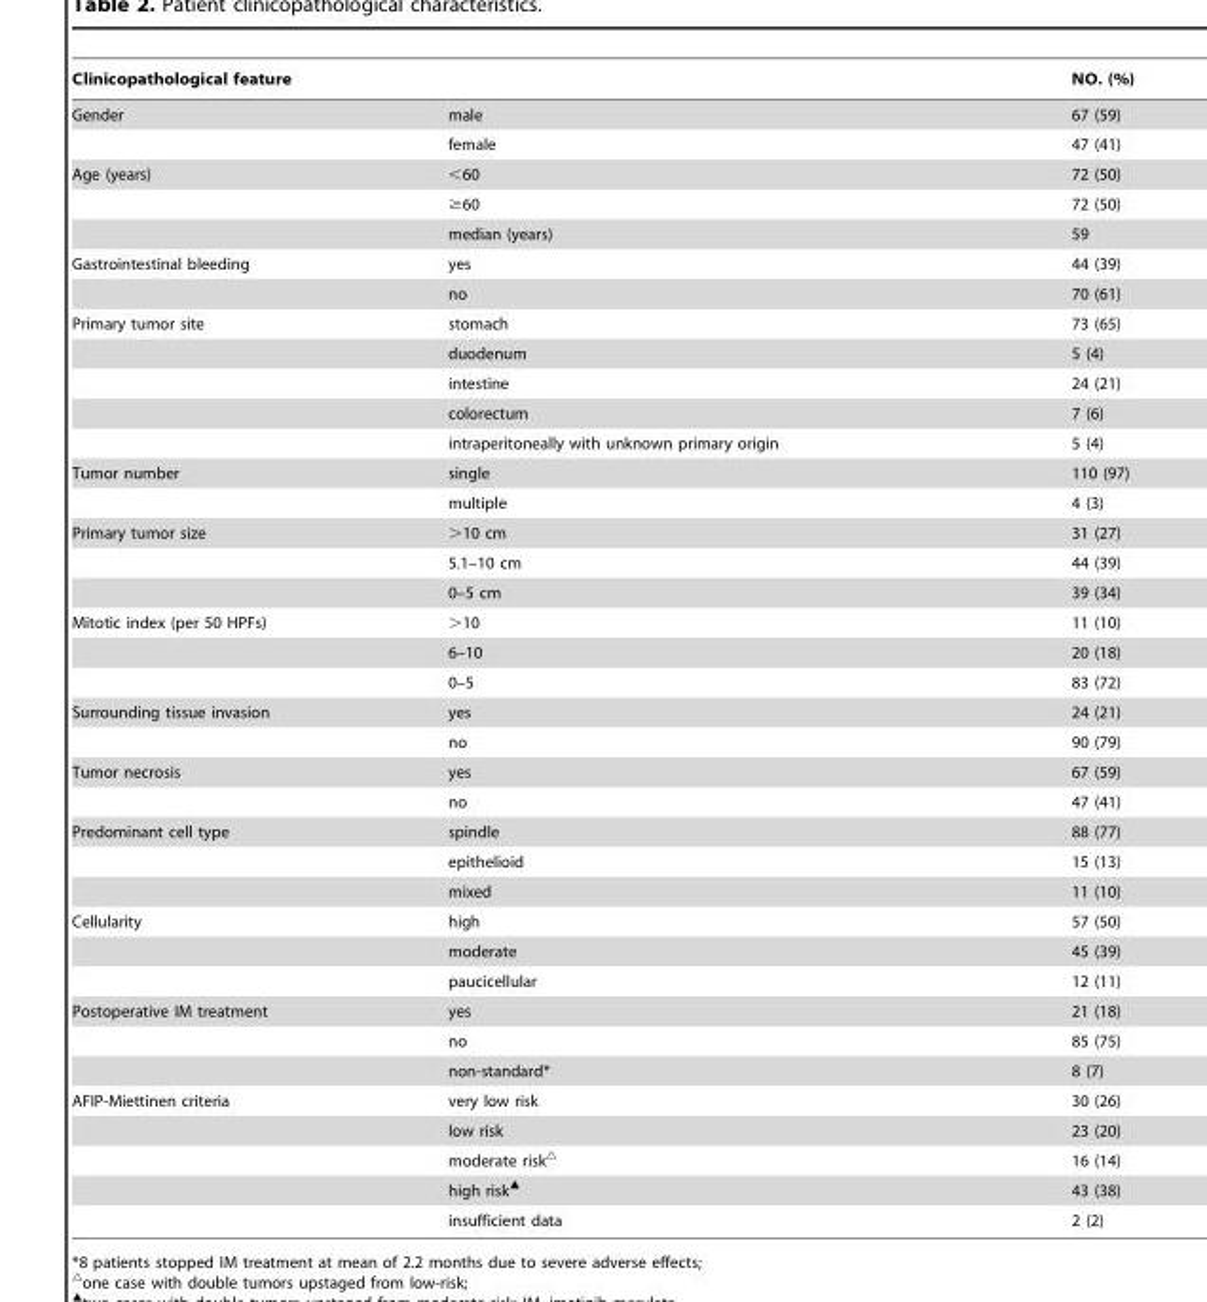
<table><thead><tr><td>Clinicopathological feature</td><td></td><td>NO. (%)</td></tr></thead><tbody><tr><td rowspan="2">Gender</td><td>male</td><td>67 (59)</td></tr><tr><td>female</td><td>47 (41)</td></tr><tr><td rowspan="3">Age (years)</td><td>&lt;60</td><td>72 (50)</td></tr><tr><td>≥60</td><td>72 (50)</td></tr><tr><td>median (years)</td><td>59</td></tr><tr><td rowspan="2">Gastrointestinal bleeding</td><td>yes</td><td>44 (39)</td></tr><tr><td>no</td><td>70 (61)</td></tr><tr><td rowspan="5">Primary tumor site</td><td>stomach</td><td>73 (65)</td></tr><tr><td>duodenum</td><td>5 (4)</td></tr><tr><td>intestine</td><td>24 (21)</td></tr><tr><td>colorectum</td><td>7 (6)</td></tr><tr><td>intraperitoneally with unknown primary origin</td><td>5 (4)</td></tr><tr><td rowspan="2">Tumor number</td><td>single</td><td>110 (97)</td></tr><tr><td>multiple</td><td>4 (3)</td></tr><tr><td rowspan="3">Primary tumor size</td><td>&gt;10 cm</td><td>31 (27)</td></tr><tr><td>5.1–10 cm</td><td>44 (39)</td></tr><tr><td>0–5 cm</td><td>39 (34)</td></tr><tr><td rowspan="3">Mitotic index (per 50 HPFs)</td><td>&gt;10</td><td>11 (10)</td></tr><tr><td>6–10</td><td>20 (18)</td></tr><tr><td>0–5</td><td>83 (72)</td></tr><tr><td rowspan="2">Surrounding tissue invasion</td><td>yes</td><td>24 (21)</td></tr><tr><td>no</td><td>90 (79)</td></tr><tr><td rowspan="2">Tumor necrosis</td><td>yes</td><td>67 (59)</td></tr><tr><td>no</td><td>47 (41)</td></tr><tr><td rowspan="3">Predominant cell type</td><td>spindle</td><td>88 (77)</td></tr><tr><td>epithelioid</td><td>15 (13)</td></tr><tr><td>mixed</td><td>11 (10)</td></tr><tr><td rowspan="3">Cellularity</td><td>high</td><td>57 (50)</td></tr><tr><td>moderate</td><td>45 (39)</td></tr><tr><td>paucicellular</td><td>12 (11)</td></tr><tr><td rowspan="3">Postoperative IM treatment</td><td>yes</td><td>21 (18)</td></tr><tr><td>no</td><td>85 (75)</td></tr><tr><td>non-standard*</td><td>8 (7)</td></tr><tr><td rowspan="5">AFIP-Miettinen criteria</td><td>very low risk</td><td>30 (26)</td></tr><tr><td>low risk</td><td>23 (20)</td></tr><tr><td>moderate risk△</td><td>16 (14)</td></tr><tr><td>high risk▴</td><td>43 (38)</td></tr><tr><td>insufficient data</td><td>2 (2)</td></tr></tbody></table>